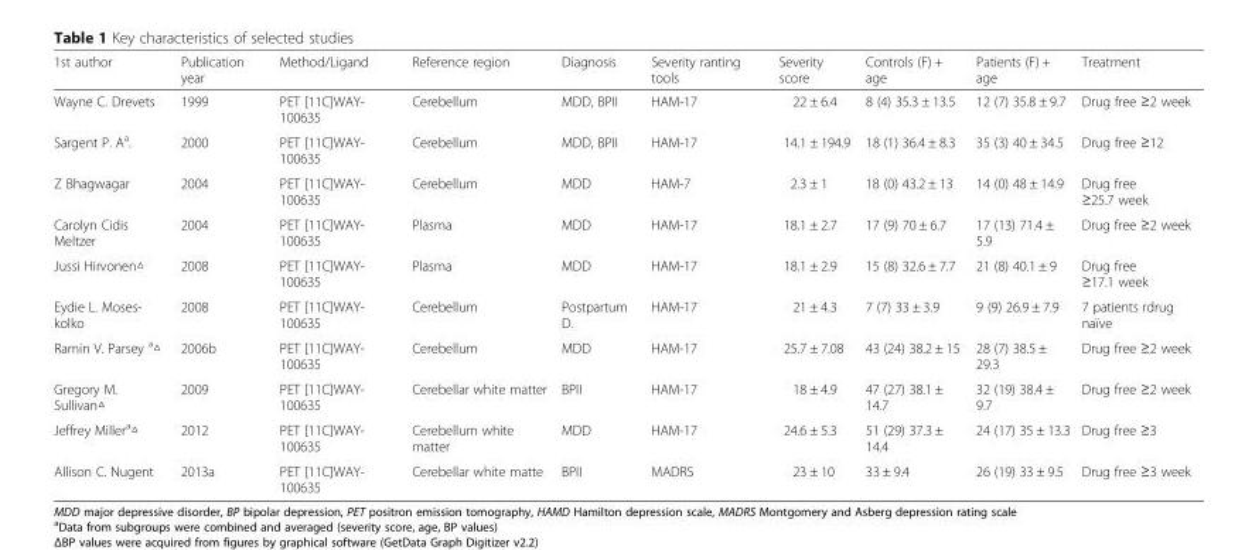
<table><thead><tr><td>1st author</td><td>Publication year</td><td>Method/Ligand</td><td>Reference region</td><td>Diagnosis</td><td>Severity ranting tools</td><td>Severity score</td><td>Controls (F) + age</td><td>Patients (F) + age</td><td>Treatment</td></tr></thead><tbody><tr><td>Wayne C. Drevets</td><td>1999</td><td>PET [11C]WAY- 100635</td><td>Cerebellum</td><td>MDD, BPII</td><td>HAM-17</td><td>22 ± 6.4</td><td>8 (4) 35.3 ± 13.5</td><td>12 (7) 35.8 ± 9.7</td><td>Drug free ≥2 week</td></tr><tr><td>Sargent P. A<sup>a</sup>.</td><td>2000</td><td>PET [11C]WAY- 100635</td><td>Cerebellum</td><td>MDD, BPII</td><td>HAM-17</td><td>14.1 ± 194.9</td><td>18 (1) 36.4 ± 8.3</td><td>35 (3) 40 ± 34.5</td><td>Drug free ≥12</td></tr><tr><td>Z Bhagwagar</td><td>2004</td><td>PET [11C]WAY- 100635</td><td>Cerebellum</td><td>MDD</td><td>HAM-7</td><td>2.3 ± 1</td><td>18 (0) 43.2 ± 13</td><td>14 (0) 48 ± 14.9</td><td>Drug free ≥25.7 week</td></tr><tr><td>Carolyn Cidis Meltzer</td><td>2004</td><td>PET [11C]WAY- 100635</td><td>Plasma</td><td>MDD</td><td>HAM-17</td><td>18.1 ± 2.7</td><td>17 (9) 70 ± 6.7</td><td>17 (13) 71.4 ± 5.9</td><td>Drug free ≥2 week</td></tr><tr><td>Jussi Hirvonen△</td><td>2008</td><td>PET [11C]WAY- 100635</td><td>Plasma</td><td>MDD</td><td>HAM-17</td><td>18.1 ± 2.9</td><td>15 (8) 32.6 ± 7.7</td><td>21 (8) 40.1 ± 9</td><td>Drug free ≥17.1 week</td></tr><tr><td>Eydie L. Moses- kolko</td><td>2008</td><td>PET [11C]WAY- 100635</td><td>Cerebellum</td><td>Postpartum D.</td><td>HAM-17</td><td>21 ± 4.3</td><td>7 (7) 33 ± 3.9</td><td>9 (9) 26.9 ± 7.9</td><td>7 patients rdrug naïve</td></tr><tr><td>Ramin V. Parsey <sup>a</sup>△</td><td>2006b</td><td>PET [11C]WAY- 100635</td><td>Cerebellum</td><td>MDD</td><td>HAM-17</td><td>25.7 ± 7.08</td><td>43 (24) 38.2 ± 15</td><td>28 (7) 38.5 ± 29.3</td><td>Drug free ≥2 week</td></tr><tr><td>Gregory M. Sullivan△</td><td>2009</td><td>PET [11C]WAY- 100635</td><td>Cerebellar white matter</td><td>BPII</td><td>HAM-17</td><td>18 ± 4.9</td><td>47 (27) 38.1 ± 14.7</td><td>32 (19) 38.4 ± 9.7</td><td>Drug free ≥2 week</td></tr><tr><td>Jeffrey Miller<sup>a</sup>△</td><td>2012</td><td>PET [11C]WAY- 100635</td><td>Cerebellum white matter</td><td>MDD</td><td>HAM-17</td><td>24.6 ± 5.3</td><td>51 (29) 37.3 ± 14.4</td><td>24 (17) 35 ± 13.3</td><td>Drug free ≥3</td></tr><tr><td>Allison C. Nugent</td><td>2013a</td><td>PET [11C]WAY- 100635</td><td>Cerebellar white matte</td><td>BPII</td><td>MADRS</td><td>23 ± 10</td><td>33 ± 9.4</td><td>26 (19) 33 ± 9.5</td><td>Drug free ≥3 week</td></tr></tbody></table>